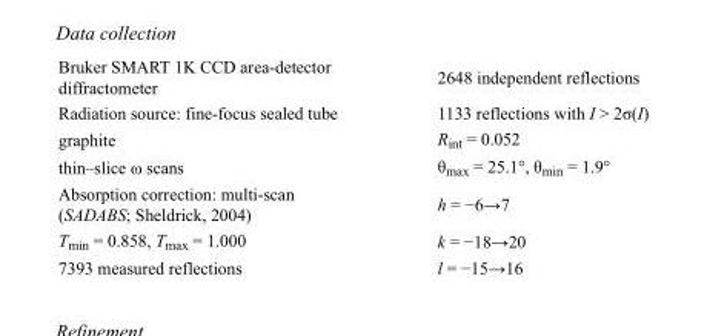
<table><tbody><tr><td>Bruker SMART 1K CCD area-detector diffractometer</td><td>2648 independent reflections</td></tr><tr><td>Radiation source: fine-focus sealed tube</td><td>1133 reflections with I &gt; 2σ(I)</td></tr><tr><td>graphite</td><td>R<sub>int</sub> = 0.052</td></tr><tr><td>thin–slice ω scans</td><td>θ<sub>max</sub> = 25.1°, θ<sub>min</sub> = 1.9°</td></tr><tr><td>Absorption correction: multi-scan (SADABS; Sheldrick, 2004)</td><td>h = −6→7</td></tr><tr><td>T<sub>min</sub> = 0.858, T<sub>max</sub> = 1.000</td><td>k = −18→20</td></tr><tr><td>7393 measured reflections</td><td>l = −15→16</td></tr></tbody></table>